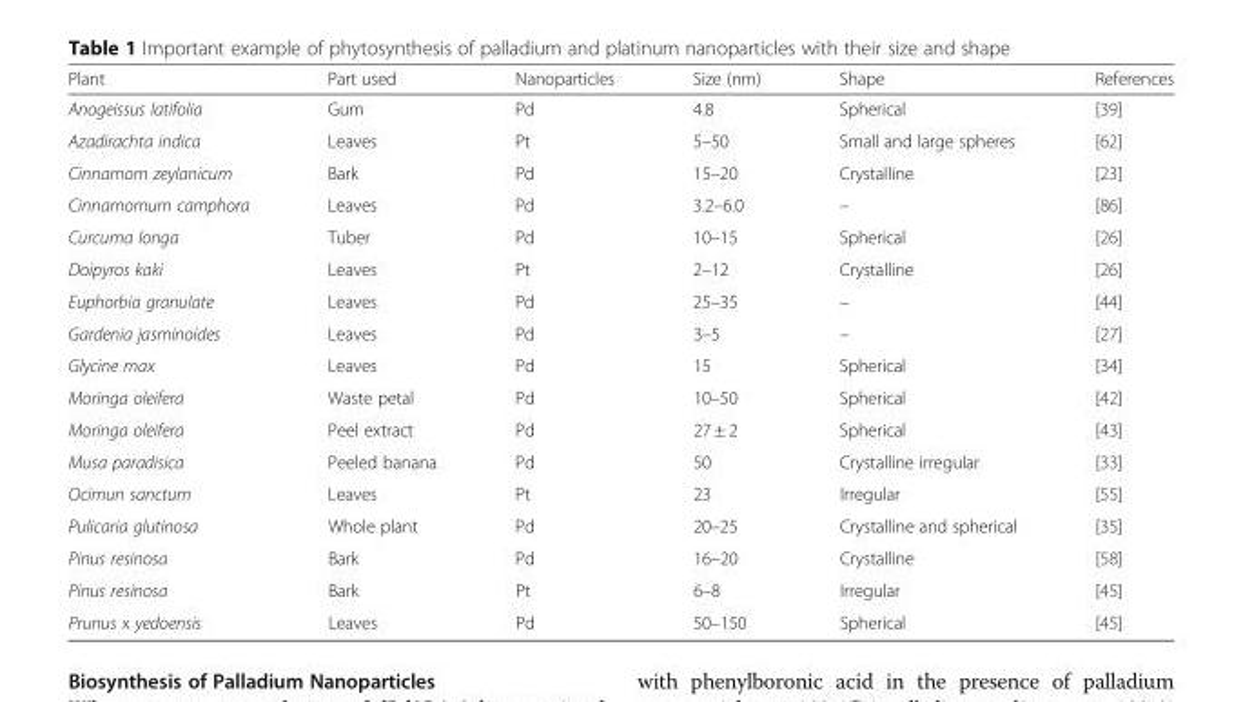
<table><thead><tr><td>Plant</td><td>Part used</td><td>Nanoparticles</td><td>Size (nm)</td><td>Shape</td><td>References</td></tr></thead><tbody><tr><td>Anogeissus latifolia</td><td>Gum</td><td>Pd</td><td>4.8</td><td>Spherical</td><td>[39]</td></tr><tr><td>Azadirachta indica</td><td>Leaves</td><td>Pt</td><td>5–50</td><td>Small and large spheres</td><td>[62]</td></tr><tr><td>Cinnamom zeylanicum</td><td>Bark</td><td>Pd</td><td>15–20</td><td>Crystalline</td><td>[23]</td></tr><tr><td>Cinnamomum camphora</td><td>Leaves</td><td>Pd</td><td>3.2–6.0</td><td>–</td><td>[86]</td></tr><tr><td>Curcuma longa</td><td>Tuber</td><td>Pd</td><td>10–15</td><td>Spherical</td><td>[26]</td></tr><tr><td>Doipyros kaki</td><td>Leaves</td><td>Pt</td><td>2–12</td><td>Crystalline</td><td>[26]</td></tr><tr><td>Euphorbia granulate</td><td>Leaves</td><td>Pd</td><td>25–35</td><td>–</td><td>[44]</td></tr><tr><td>Gardenia jasminoides</td><td>Leaves</td><td>Pd</td><td>3–5</td><td>–</td><td>[27]</td></tr><tr><td>Glycine max</td><td>Leaves</td><td>Pd</td><td>15</td><td>Spherical</td><td>[34]</td></tr><tr><td>Moringa oleifera</td><td>Waste petal</td><td>Pd</td><td>10–50</td><td>Spherical</td><td>[42]</td></tr><tr><td>Moringa oleifera</td><td>Peel extract</td><td>Pd</td><td>27 ± 2</td><td>Spherical</td><td>[43]</td></tr><tr><td>Musa paradisica</td><td>Peeled banana</td><td>Pd</td><td>50</td><td>Crystalline irregular</td><td>[33]</td></tr><tr><td>Ocimun sanctum</td><td>Leaves</td><td>Pt</td><td>23</td><td>Irregular</td><td>[55]</td></tr><tr><td>Pulicaria glutinosa</td><td>Whole plant</td><td>Pd</td><td>20–25</td><td>Crystalline and spherical</td><td>[35]</td></tr><tr><td>Pinus resinosa</td><td>Bark</td><td>Pd</td><td>16–20</td><td>Crystalline</td><td>[58]</td></tr><tr><td>Pinus resinosa</td><td>Bark</td><td>Pt</td><td>6–8</td><td>Irregular</td><td>[45]</td></tr><tr><td>Prunus x yedoensis</td><td>Leaves</td><td>Pd</td><td>50–150</td><td>Spherical</td><td>[45]</td></tr></tbody></table>